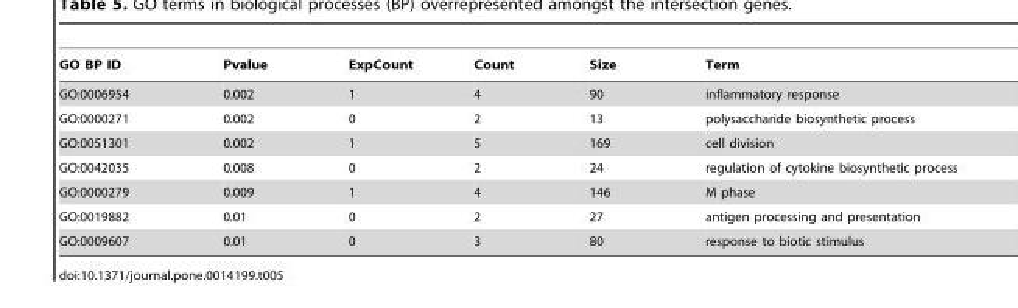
<table><thead><tr><td>GO BP ID</td><td>Pvalue</td><td>ExpCount</td><td>Count</td><td>Size</td><td>Term</td></tr></thead><tbody><tr><td>GO:0006954</td><td>0.002</td><td>1</td><td>4</td><td>90</td><td>inflammatory response</td></tr><tr><td>GO:0000271</td><td>0.002</td><td>0</td><td>2</td><td>13</td><td>polysaccharide biosynthetic process</td></tr><tr><td>GO:0051301</td><td>0.002</td><td>1</td><td>5</td><td>169</td><td>cell division</td></tr><tr><td>GO:0042035</td><td>0.008</td><td>0</td><td>2</td><td>24</td><td>regulation of cytokine biosynthetic process</td></tr><tr><td>GO:0000279</td><td>0.009</td><td>1</td><td>4</td><td>146</td><td>M phase</td></tr><tr><td>GO:0019882</td><td>0.01</td><td>0</td><td>2</td><td>27</td><td>antigen processing and presentation</td></tr><tr><td>GO:0009607</td><td>0.01</td><td>0</td><td>3</td><td>80</td><td>response to biotic stimulus</td></tr></tbody></table>